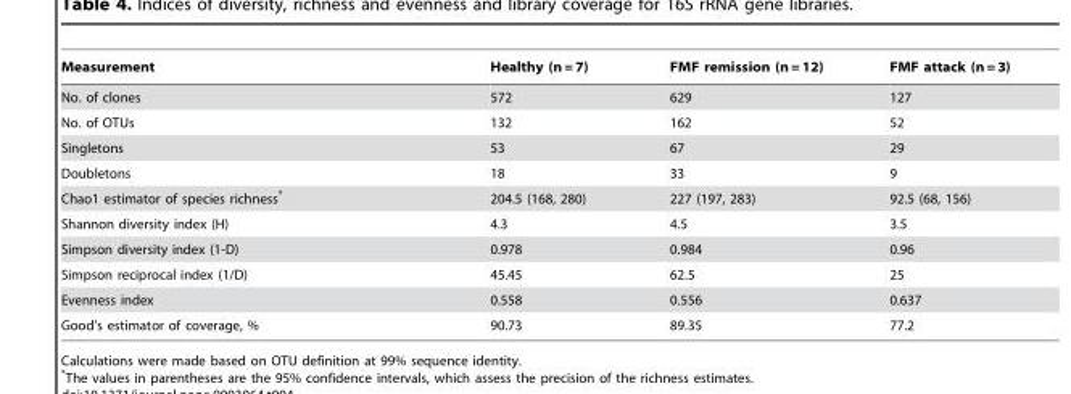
<table><thead><tr><td>Measurement</td><td>Healthy (n = 7)</td><td>FMF remission (n = 12)</td><td>FMF attack (n = 3)</td></tr></thead><tbody><tr><td>No. of clones</td><td>572</td><td>629</td><td>127</td></tr><tr><td>No. of OTUs</td><td>132</td><td>162</td><td>52</td></tr><tr><td>Singletons</td><td>53</td><td>67</td><td>29</td></tr><tr><td>Doubletons</td><td>18</td><td>33</td><td>9</td></tr><tr><td>Chao1 estimator of species richness*</td><td>204.5 (168, 280)</td><td>227 (197, 283)</td><td>92.5 (68, 156)</td></tr><tr><td>Shannon diversity index (H)</td><td>4.3</td><td>4.5</td><td>3.5</td></tr><tr><td>Simpson diversity index (1-D)</td><td>0.978</td><td>0.984</td><td>0.96</td></tr><tr><td>Simpson reciprocal index (1/D)</td><td>45.45</td><td>62.5</td><td>25</td></tr><tr><td>Evenness index</td><td>0.558</td><td>0.556</td><td>0.637</td></tr><tr><td>Good’s estimator of coverage, %</td><td>90.73</td><td>89.35</td><td>77.2</td></tr></tbody></table>